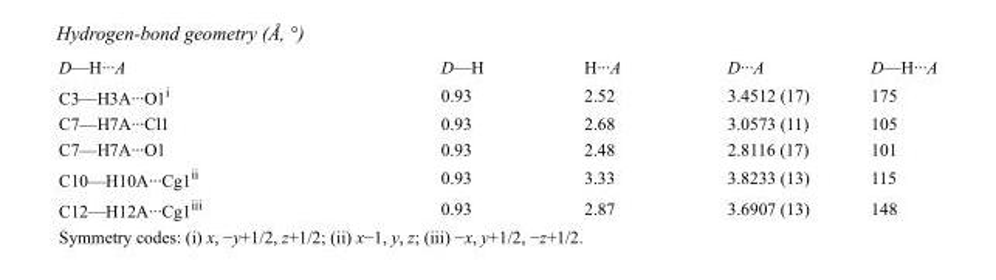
<table><tbody><tr><td>D—H···A</td><td>D—H</td><td>H···A</td><td>D···A</td><td>D—H···A</td></tr><tr><td>C3—H3A···O1<sup>i</sup></td><td>0.93</td><td>2.52</td><td>3.4512 (17)</td><td>175</td></tr><tr><td>C7—H7A···Cl1</td><td>0.93</td><td>2.68</td><td>3.0573 (11)</td><td>105</td></tr><tr><td>C7—H7A···O1</td><td>0.93</td><td>2.48</td><td>2.8116 (17)</td><td>101</td></tr><tr><td>C10—H10A···Cg1<sup>ii</sup></td><td>0.93</td><td>3.33</td><td>3.8233 (13)</td><td>115</td></tr><tr><td>C12—H12A···Cg1<sup>iii</sup></td><td>0.93</td><td>2.87</td><td>3.6907 (13)</td><td>148</td></tr></tbody></table>